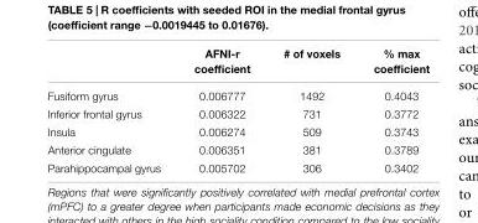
<table><thead><tr><td></td><td>AFNI-r coefficient</td><td># of voxels</td><td>% max coefficient</td></tr></thead><tbody><tr><td>Fusiform gyrus</td><td>0.006777</td><td>1492</td><td>0.4043</td></tr><tr><td>Inferior frontal gyrus</td><td>0.006322</td><td>731</td><td>0.3772</td></tr><tr><td>Insula</td><td>0.006274</td><td>509</td><td>0.3743</td></tr><tr><td>Anterior cingulate</td><td>0.006351</td><td>381</td><td>0.3789</td></tr><tr><td>Parahippocampal gyrus</td><td>0.005702</td><td>306</td><td>0.3402</td></tr></tbody></table>